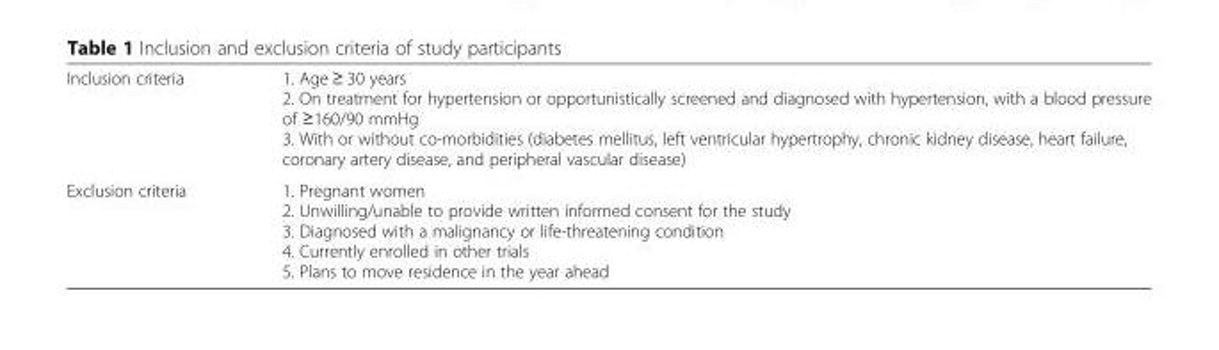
<table><tbody><tr><td>Inclusion criteria</td><td>1. Age ≥ 30 years 2. On treatment for hypertension or opportunistically screened and diagnosed with hypertension, with a blood pressure of ≥160/90 mmHg 3. With or without co-morbidities (diabetes mellitus, left ventricular hypertrophy, chronic kidney disease, heart failure, coronary artery disease, and peripheral vascular disease)</td></tr><tr><td>Exclusion criteria</td><td>1. Pregnant women 2. Unwilling/unable to provide written informed consent for the study 3. Diagnosed with a malignancy or life-threatening condition 4. Currently enrolled in other trials 5. Plans to move residence in the year ahead</td></tr></tbody></table>